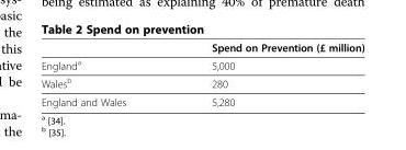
<table><thead><tr><td></td><td>Spend on Prevention (£ million)</td></tr></thead><tbody><tr><td>England<sup>a</sup></td><td>5,000</td></tr><tr><td>Wales<sup>b</sup></td><td>280</td></tr><tr><td>England and Wales</td><td>5,280</td></tr></tbody></table>